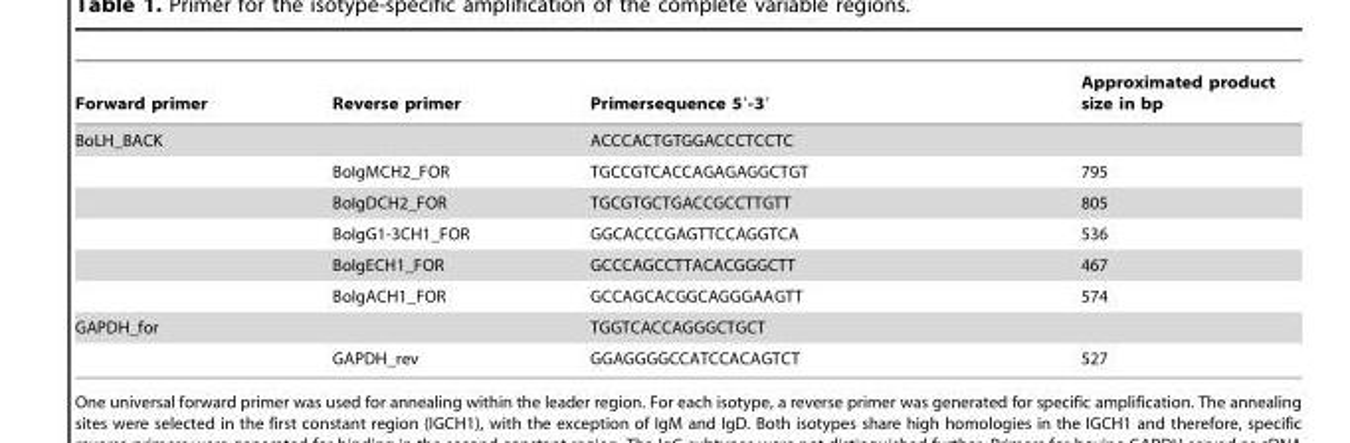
<table><thead><tr><td>Forward primer</td><td>Reverse primer</td><td>Primersequence 5′-3′</td><td>Approximated product size in bp</td></tr></thead><tbody><tr><td rowspan="6">BoLH_BACK</td><td></td><td>ACCCACTGTGGACCCTCCTC</td><td></td></tr><tr><td>BoIgMCH2_FOR</td><td>TGCCGTCACCAGAGAGGCTGT</td><td>795</td></tr><tr><td>BoIgDCH2_FOR</td><td>TGCGTGCTGACCGCCTTGTT</td><td>805</td></tr><tr><td>BoIgG1-3CH1_FOR</td><td>GGCACCCGAGTTCCAGGTCA</td><td>536</td></tr><tr><td>BoIgECH1_FOR</td><td>GCCCAGCCTTACACGGGCTT</td><td>467</td></tr><tr><td>BoIgACH1_FOR</td><td>GCCAGCACGGCAGGGAAGTT</td><td>574</td></tr><tr><td rowspan="2">GAPDH_for</td><td></td><td>TGGTCACCAGGGCTGCT</td><td></td></tr><tr><td>GAPDH_rev</td><td>GGAGGGGCCATCCACAGTCT</td><td>527</td></tr></tbody></table>